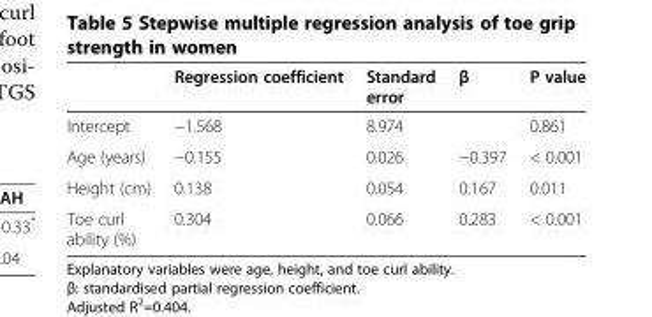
<table><thead><tr><td></td><td>Regression coefficient</td><td>Standard error</td><td>β</td><td>P value</td></tr></thead><tbody><tr><td>Intercept</td><td>−1.568</td><td>8.974</td><td></td><td>0.861</td></tr><tr><td>Age (years)</td><td>−0.155</td><td>0.026</td><td>−0.397</td><td>&lt; 0.001</td></tr><tr><td>Height (cm)</td><td>0.138</td><td>0.054</td><td>0.167</td><td>0.011</td></tr><tr><td>Toe curl ability (%)</td><td>0.304</td><td>0.066</td><td>0.283</td><td>&lt; 0.001</td></tr></tbody></table>